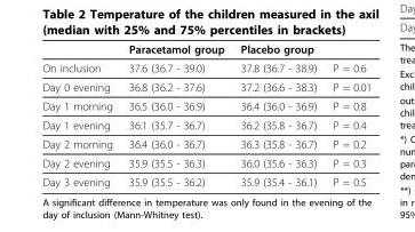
<table><thead><tr><td></td><td>Paracetamol group</td><td>Placebo group</td><td></td></tr></thead><tbody><tr><td>On inclusion</td><td>37.6 (36.7 - 39.0)</td><td>37.8 (36.7 - 38.9)</td><td>P = 0.6</td></tr><tr><td>Day 0 evening</td><td>36.8 (36.2 - 37.6)</td><td>37.2 (36.6 - 38.3)</td><td>P = 0.01</td></tr><tr><td>Day 1 morning</td><td>36.5 (36.0 - 36.9)</td><td>36.4 (36.0 - 36.9)</td><td>P = 0.8</td></tr><tr><td>Day 1 evening</td><td>36.1 (35.7 - 36.7)</td><td>36.2 (35.8 - 36.7)</td><td>P = 0.4</td></tr><tr><td>Day 2 morning</td><td>36.4 (36.0 - 36.7)</td><td>36.3 (35.8 - 36.7)</td><td>P = 0.2</td></tr><tr><td>Day 2 evening</td><td>35.9 (35.5 - 36.3)</td><td>36.0 (35.6 - 36.3)</td><td>P = 0.3</td></tr><tr><td>Day 3 evening</td><td>35.9 (35.5 - 36.2)</td><td>35.9 (35.4 - 36.1)</td><td>P = 0.5</td></tr></tbody></table>